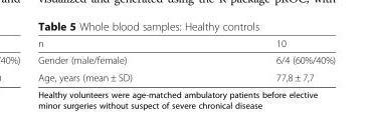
<table><thead><tr><td>n</td><td>10</td></tr></thead><tbody><tr><td>Gender (male/female)</td><td>6/4 (60%/40%)</td></tr><tr><td>Age, years (mean ± SD)</td><td>77,8 ± 7,7</td></tr></tbody></table>